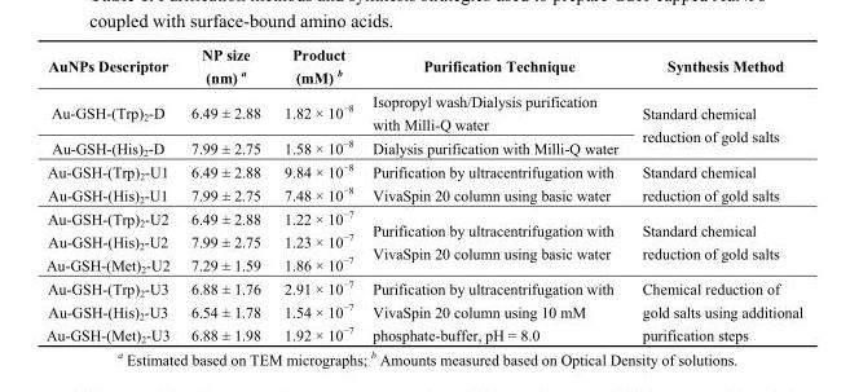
<table><thead><tr><td>AuNPs Descriptor</td><td>NP size (nm) <sup>a</sup></td><td>Product (mM) <sup>b</sup></td><td>Purification Technique</td><td>Synthesis Method</td></tr></thead><tbody><tr><td>Au-GSH-(Trp)<sub>2</sub>-D</td><td>6.49 ± 2.88</td><td>1.82 × 10<sup>−8</sup></td><td>Isopropyl wash/Dialysis purification with Milli-Q water</td><td rowspan="2">Standard chemical reduction of gold salts</td></tr><tr><td>Au-GSH-(His)<sub>2</sub>-D</td><td>7.99 ± 2.75</td><td>1.58 × 10<sup>−8</sup></td><td>Dialysis purification with Milli-Q water</td></tr><tr><td>Au-GSH-(Trp)<sub>2</sub>-U1</td><td>6.49 ± 2.88</td><td>9.84 × 10<sup>−8</sup></td><td rowspan="2">Purification by ultracentrifugation with VivaSpin 20 column using basic water</td><td rowspan="2">Standard chemical reduction of gold salts</td></tr><tr><td>Au-GSH-(His)<sub>2</sub>-U1</td><td>7.99 ± 2.75</td><td>7.48 × 10<sup>−8</sup></td></tr><tr><td>Au-GSH-(Trp)<sub>2</sub>-U2</td><td>6.49 ± 2.88</td><td>1.22 × 10<sup>−7</sup></td><td rowspan="3">Purification by ultracentrifugation with VivaSpin 20 column using basic water</td><td rowspan="3">Standard chemical reduction of gold salts</td></tr><tr><td>Au-GSH-(His)<sub>2</sub>-U2</td><td>7.99 ± 2.75</td><td>1.23 × 10<sup>−7</sup></td></tr><tr><td>Au-GSH-(Met)<sub>2</sub>-U2</td><td>7.29 ± 1.59</td><td>1.86 × 10<sup>−7</sup></td></tr><tr><td>Au-GSH-(Trp)<sub>2</sub>-U3</td><td>6.88 ± 1.76</td><td>2.91 × 10<sup>−7</sup></td><td rowspan="3">Purification by ultracentrifugation with VivaSpin 20 column using 10 mM phosphate-buffer, pH = 8.0</td><td rowspan="3">Chemical reduction of gold salts using additional purification steps</td></tr><tr><td>Au-GSH-(His)<sub>2</sub>-U3</td><td>6.54 ± 1.78</td><td>1.54 × 10<sup>−7</sup></td></tr><tr><td>Au-GSH-(Met)<sub>2</sub>-U3</td><td>6.88 ± 1.98</td><td>1.92 × 10<sup>−7</sup></td></tr></tbody></table>